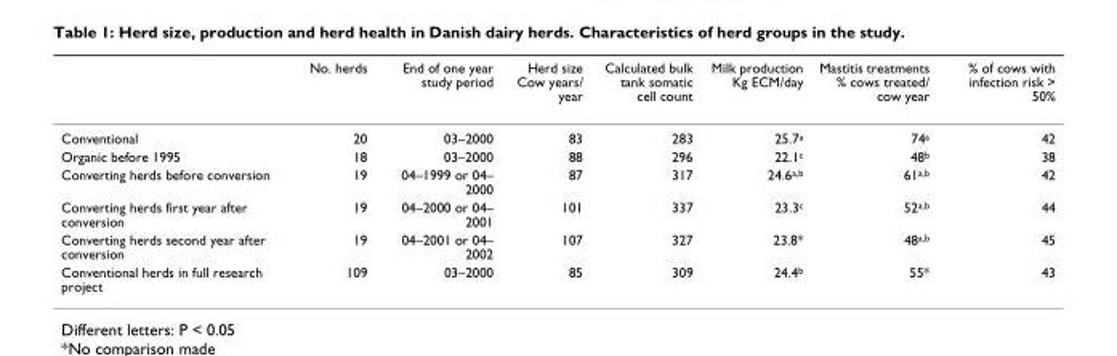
<table><thead><tr><td></td><td>No. herds</td><td>End of one year study period</td><td>Herd size Cow years/ year</td><td>Calculated bulk tank somatic cell count</td><td>Milk production Kg ECM/day</td><td>Mastitis treatments % cows treated/ cow year</td><td>% of cows with infection risk &gt; 50%</td></tr></thead><tbody><tr><td>Conventional</td><td>20</td><td>03–2000</td><td>83</td><td>283</td><td>25.7<sup>a</sup></td><td>74<sup>a</sup></td><td>42</td></tr><tr><td>Organic before 1995</td><td>18</td><td>03–2000</td><td>88</td><td>296</td><td>22.1<sup>c</sup></td><td>48<sup>b</sup></td><td>38</td></tr><tr><td>Converting herds before conversion</td><td>19</td><td>04–1999 or 04– 2000</td><td>87</td><td>317</td><td>24.6<sup>a,b</sup></td><td>61<sup>a,b</sup></td><td>42</td></tr><tr><td>Converting herds first year after conversion</td><td>19</td><td>04–2000 or 04– 2001</td><td>101</td><td>337</td><td>23.3<sup>c</sup></td><td>52<sup>a,b</sup></td><td>44</td></tr><tr><td>Converting herds second year after conversion</td><td>19</td><td>04–2001 or 04– 2002</td><td>107</td><td>327</td><td>23.8*</td><td>48<sup>a,b</sup></td><td>45</td></tr><tr><td>Conventional herds in full research project</td><td>109</td><td>03–2000</td><td>85</td><td>309</td><td>24.4<sup>b</sup></td><td>55*</td><td>43</td></tr></tbody></table>